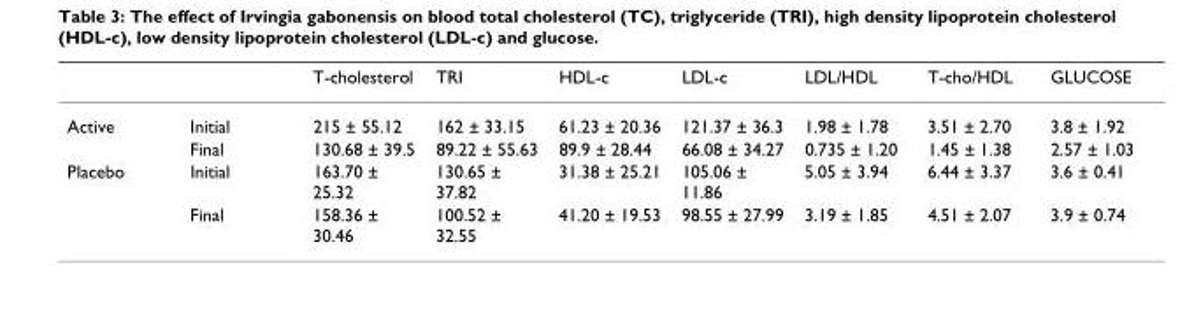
<table><thead><tr><td></td><td></td><td>T-cholesterol</td><td>TRI</td><td>HDL-c</td><td>LDL-c</td><td>LDL/HDL</td><td>T-cho/HDL</td><td>GLUCOSE</td></tr></thead><tbody><tr><td rowspan="2">Active</td><td>Initial</td><td>215 ± 55.12</td><td>162 ± 33.15</td><td>61.23 ± 20.36</td><td>121.37 ± 36.3</td><td>1.98 ± 1.78</td><td>3.51 ± 2.70</td><td>3.8 ± 1.92</td></tr><tr><td>Final</td><td>130.68 ± 39.5</td><td>89.22 ± 55.63</td><td>89.9 ± 28.44</td><td>66.08 ± 34.27</td><td>0.735 ± 1.20</td><td>1.45 ± 1.38</td><td>2.57 ± 1.03</td></tr><tr><td rowspan="2">Placebo</td><td>Initial</td><td>163.70 ± 25.32</td><td>130.65 ± 37.82</td><td>31.38 ± 25.21</td><td>105.06 ± 11.86</td><td>5.05 ± 3.94</td><td>6.44 ± 3.37</td><td>3.6 ± 0.41</td></tr><tr><td>Final</td><td>158.36 ± 30.46</td><td>100.52 ± 32.55</td><td>41.20 ± 19.53</td><td>98.55 ± 27.99</td><td>3.19 ± 1.85</td><td>4.51 ± 2.07</td><td>3.9 ± 0.74</td></tr></tbody></table>